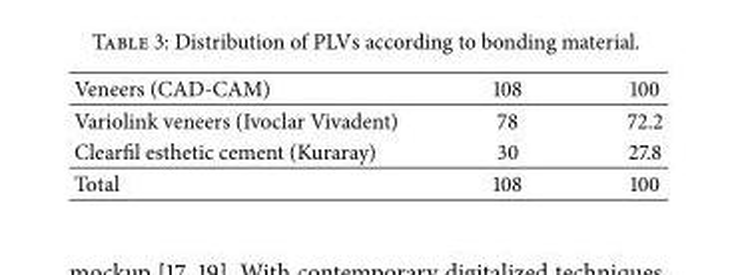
<table><thead><tr><td>Veneers (CAD-CAM)</td><td>108</td><td>100</td></tr></thead><tbody><tr><td>Variolink veneers (Ivoclar Vivadent)</td><td>78</td><td>72.2</td></tr><tr><td>Clearfil esthetic cement (Kuraray)</td><td>30</td><td>27.8</td></tr><tr><td>Total</td><td>108</td><td>100</td></tr></tbody></table>